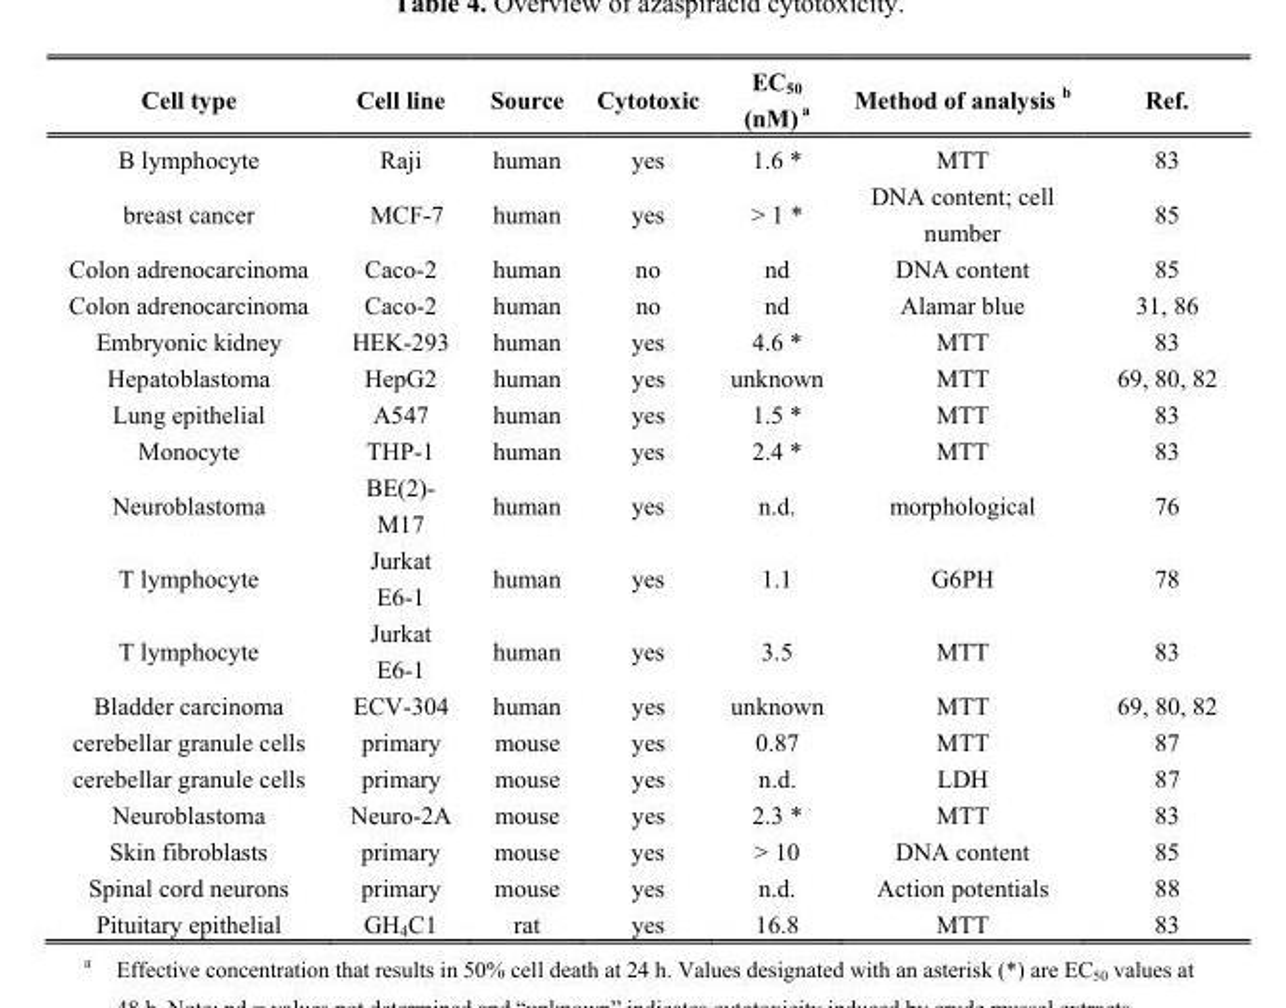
<table><thead><tr><td>Cell type</td><td>Cell line</td><td>Source</td><td>Cytotoxic</td><td>EC<sub>50</sub> (nM) a</td><td>Method of analysis b</td><td>Ref.</td></tr></thead><tbody><tr><td>B lymphocyte</td><td>Raji</td><td>human</td><td>yes</td><td>1.6 *</td><td>MTT</td><td>83</td></tr><tr><td>breast cancer</td><td>MCF-7</td><td>human</td><td>yes</td><td>&gt; 1 *</td><td>DNA content; cell number</td><td>85</td></tr><tr><td>Colon adrenocarcinoma</td><td>Caco-2</td><td>human</td><td>no</td><td>nd</td><td>DNA content</td><td>85</td></tr><tr><td>Colon adrenocarcinoma</td><td>Caco-2</td><td>human</td><td>no</td><td>nd</td><td>Alamar blue</td><td>31, 86</td></tr><tr><td>Embryonic kidney</td><td>HEK-293</td><td>human</td><td>yes</td><td>4.6 *</td><td>MTT</td><td>83</td></tr><tr><td>Hepatoblastoma</td><td>HepG2</td><td>human</td><td>yes</td><td>unknown</td><td>MTT</td><td>69, 80, 82</td></tr><tr><td>Lung epithelial</td><td>A547</td><td>human</td><td>yes</td><td>1.5 *</td><td>MTT</td><td>83</td></tr><tr><td>Monocyte</td><td>THP-1</td><td>human</td><td>yes</td><td>2.4 *</td><td>MTT</td><td>83</td></tr><tr><td>Neuroblastoma</td><td>BE(2)- M17</td><td>human</td><td>yes</td><td>n.d.</td><td>morphological</td><td>76</td></tr><tr><td>T lymphocyte</td><td>Jurkat E6-1</td><td>human</td><td>yes</td><td>1.1</td><td>G6PH</td><td>78</td></tr><tr><td>T lymphocyte</td><td>Jurkat E6-1</td><td>human</td><td>yes</td><td>3.5</td><td>MTT</td><td>83</td></tr><tr><td>Bladder carcinoma</td><td>ECV-304</td><td>human</td><td>yes</td><td>unknown</td><td>MTT</td><td>69, 80, 82</td></tr><tr><td>cerebellar granule cells</td><td>primary</td><td>mouse</td><td>yes</td><td>0.87</td><td>MTT</td><td>87</td></tr><tr><td>cerebellar granule cells</td><td>primary</td><td>mouse</td><td>yes</td><td>n.d.</td><td>LDH</td><td>87</td></tr><tr><td>Neuroblastoma</td><td>Neuro-2A</td><td>mouse</td><td>yes</td><td>2.3 *</td><td>MTT</td><td>83</td></tr><tr><td>Skin fibroblasts</td><td>primary</td><td>mouse</td><td>yes</td><td>&gt; 10</td><td>DNA content</td><td>85</td></tr><tr><td>Spinal cord neurons</td><td>primary</td><td>mouse</td><td>yes</td><td>n.d.</td><td>Action potentials</td><td>88</td></tr><tr><td>Pituitary epithelial</td><td>GH<sub>4</sub>C1</td><td>rat</td><td>yes</td><td>16.8</td><td>MTT</td><td>83</td></tr></tbody></table>